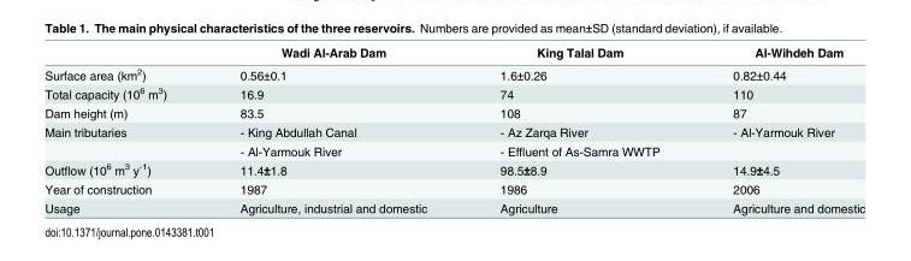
<table><thead><tr><td></td><td>Wadi Al-Arab Dam</td><td>King Talal Dam</td><td>Al-Wihdeh Dam</td></tr></thead><tbody><tr><td>Surface area (km<sup>2</sup>)</td><td>0.56±0.1</td><td>1.6±0.26</td><td>0.82±0.44</td></tr><tr><td>Total capacity (10<sup>6</sup> m<sup>3</sup>)</td><td>16.9</td><td>74</td><td>110</td></tr><tr><td>Dam height (m)</td><td>83.5</td><td>108</td><td>87</td></tr><tr><td rowspan="2">Main tributaries</td><td>- King Abdullah Canal</td><td>- Az Zarqa River</td><td>- Al-Yarmouk River</td></tr><tr><td>- Al-Yarmouk River</td><td>- Effluent of As-Samra WWTP</td><td></td></tr><tr><td>Outflow (10<sup>6</sup> m<sup>3</sup> y<sup>-1</sup>)</td><td>11.4±1.8</td><td>98.5±8.9</td><td>14.9±4.5</td></tr><tr><td>Year of construction</td><td>1987</td><td>1986</td><td>2006</td></tr><tr><td>Usage</td><td>Agriculture, industrial and domestic</td><td>Agriculture</td><td>Agriculture and domestic</td></tr></tbody></table>